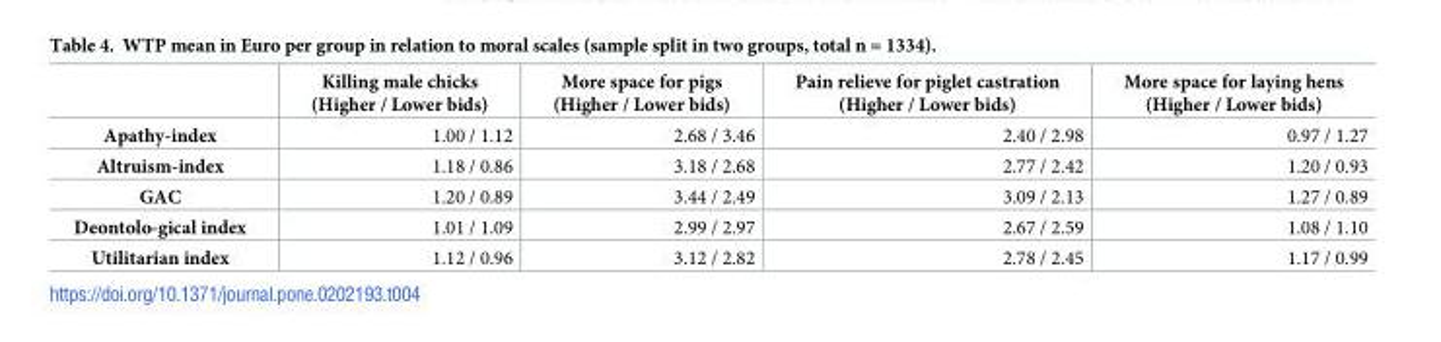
<table><thead><tr><td></td><td>Killing male chicks (Higher / Lower bids)</td><td>More space for pigs (Higher / Lower bids)</td><td>Pain relieve for piglet castration (Higher / Lower bids)</td><td>More space for laying hens (Higher / Lower bids)</td></tr></thead><tbody><tr><td>Apathy-index</td><td>1.00 / 1.12</td><td>2.68 / 3.46</td><td>2.40 / 2.98</td><td>0.97 / 1.27</td></tr><tr><td>Altruism-index</td><td>1.18 / 0.86</td><td>3.18 / 2.68</td><td>2.77 / 2.42</td><td>1.20 / 0.93</td></tr><tr><td>GAC</td><td>1.20 / 0.89</td><td>3.44 / 2.49</td><td>3.09 / 2.13</td><td>1.27 / 0.89</td></tr><tr><td>Deontolo-gical index</td><td>1.01 / 1.09</td><td>2.99 / 2.97</td><td>2.67 / 2.59</td><td>1.08 / 1.10</td></tr><tr><td>Utilitarian index</td><td>1.12 / 0.96</td><td>3.12 / 2.82</td><td>2.78 / 2.45</td><td>1.17 / 0.99</td></tr></tbody></table>